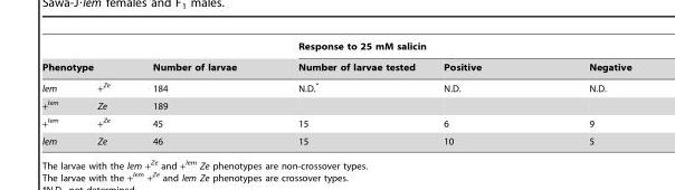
<table><thead><tr><td></td><td></td><td rowspan="2">Number of larvae</td><td colspan="3">Response to 25 mM salicin</td></tr><tr><td colspan="2">Phenotype</td><td>Number of larvae tested</td><td>Positive</td><td>Negative</td></tr></thead><tbody><tr><td>lem</td><td>+<sup>Ze</sup></td><td>184</td><td>N.D.*</td><td>N.D.</td><td>N.D.</td></tr><tr><td>+<sup>lem</sup></td><td>Ze</td><td>189</td><td></td><td></td><td></td></tr><tr><td>+<sup>lem</sup></td><td>+<sup>Ze</sup></td><td>45</td><td>15</td><td>6</td><td>9</td></tr><tr><td>lem</td><td>Ze</td><td>46</td><td>15</td><td>10</td><td>5</td></tr></tbody></table>